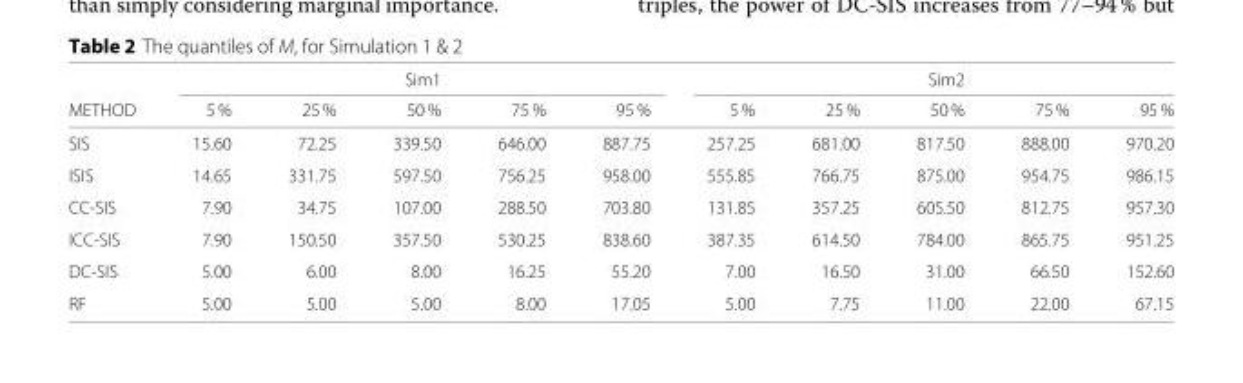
<table><thead><tr><td rowspan="2">METHOD</td><td rowspan="2">5 %</td><td rowspan="2">25 %</td><td rowspan="2">Sim1 50 %</td><td rowspan="2">75 %</td><td rowspan="2">95 %</td><td rowspan="2">5 %</td><td rowspan="2">25 %</td><td rowspan="2">Sim2 50 %</td><td rowspan="2">75 %</td><td rowspan="2">95 %</td></tr><tr></tr></thead><tbody><tr><td>SIS</td><td>15.60</td><td>72.25</td><td>339.50</td><td>646.00</td><td>887.75</td><td>257.25</td><td>681.00</td><td>817.50</td><td>888.00</td><td>970.20</td></tr><tr><td>ISIS</td><td>14.65</td><td>331.75</td><td>597.50</td><td>756.25</td><td>958.00</td><td>555.85</td><td>766.75</td><td>875.00</td><td>954.75</td><td>986.15</td></tr><tr><td>CC-SIS</td><td>7.90</td><td>34.75</td><td>107.00</td><td>288.50</td><td>703.80</td><td>131.85</td><td>357.25</td><td>605.50</td><td>812.75</td><td>957.30</td></tr><tr><td>ICC-SIS</td><td>7.90</td><td>150.50</td><td>357.50</td><td>530.25</td><td>838.60</td><td>387.35</td><td>614.50</td><td>784.00</td><td>865.75</td><td>951.25</td></tr><tr><td>DC-SIS</td><td>5.00</td><td>6.00</td><td>8.00</td><td>16.25</td><td>55.20</td><td>7.00</td><td>16.50</td><td>31.00</td><td>66.50</td><td>152.60</td></tr><tr><td>RF</td><td>5.00</td><td>5.00</td><td>5.00</td><td>8.00</td><td>17.05</td><td>5.00</td><td>7.75</td><td>11.00</td><td>22.00</td><td>67.15</td></tr></tbody></table>